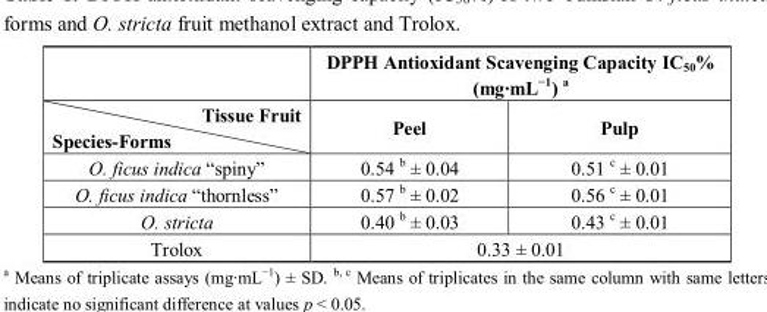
<table><thead><tr><td rowspan="3">Species-Forms</td><td rowspan="3">Tissue Fruit</td><td colspan="2">DPPH Antioxidant Scavenging Capacity IC<sub>50</sub>% (mg·mL<sup>−1</sup>) <sup>a</sup></td></tr><tr><td rowspan="2">Peel</td><td rowspan="2">Pulp</td></tr><tr></tr></thead><tbody><tr><td colspan="2">O. ficus indica ―spiny‖</td><td>0.54 <sup>b</sup> ± 0.04</td><td>0.51 <sup>c</sup> ± 0.01</td></tr><tr><td colspan="2">O. ficus indica ―thornless‖</td><td>0.57 <sup>b</sup> ± 0.02</td><td>0.56 <sup>c</sup> ± 0.01</td></tr><tr><td colspan="2">O. stricta</td><td>0.40 <sup>b</sup> ± 0.03</td><td>0.43 <sup>c</sup> ± 0.01</td></tr><tr><td colspan="2">Trolox</td><td colspan="2">0.33 ± 0.01</td></tr></tbody></table>